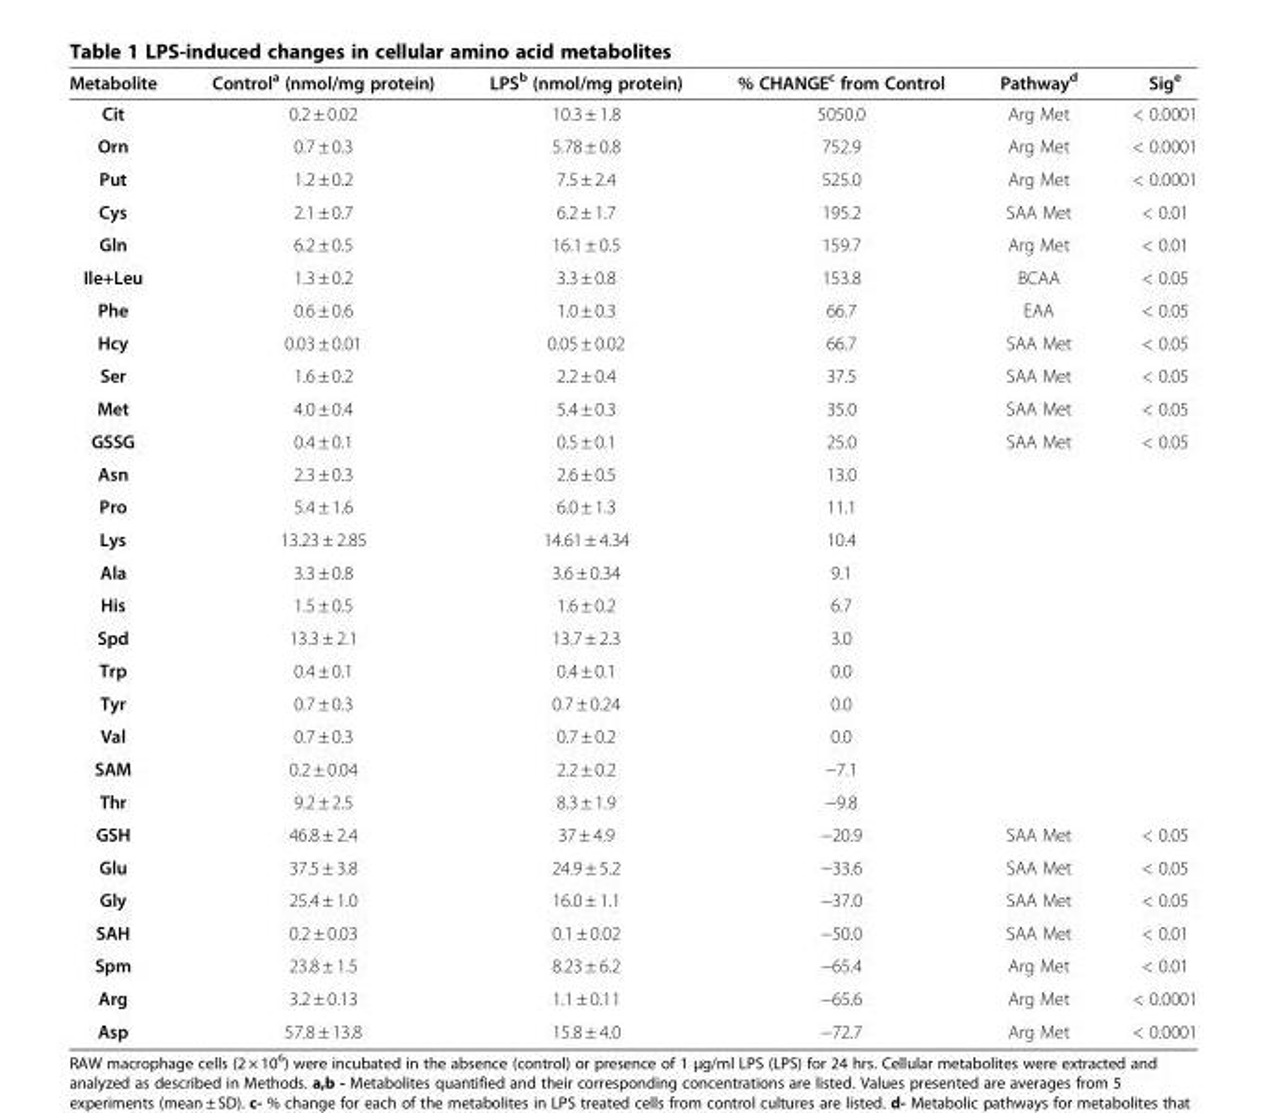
<table><thead><tr><td>Metabolite</td><td>Control<sup>a</sup> (nmol/mg protein)</td><td>LPS<sup>b</sup> (nmol/mg protein)</td><td>% CHANGE<sup>c</sup> from Control</td><td>Pathway<sup>d</sup></td><td>Sig<sup>e</sup></td></tr></thead><tbody><tr><td>Cit</td><td>0.2 ± 0.02</td><td>10.3 ± 1.8</td><td>5050.0</td><td>Arg Met</td><td>&lt; 0.0001</td></tr><tr><td>Orn</td><td>0.7 ± 0.3</td><td>5.78 ± 0.8</td><td>752.9</td><td>Arg Met</td><td>&lt; 0.0001</td></tr><tr><td>Put</td><td>1.2 ± 0.2</td><td>7.5 ± 2.4</td><td>525.0</td><td>Arg Met</td><td>&lt; 0.0001</td></tr><tr><td>Cys</td><td>2.1 ± 0.7</td><td>6.2 ± 1.7</td><td>195.2</td><td>SAA Met</td><td>&lt; 0.01</td></tr><tr><td>Gln</td><td>6.2 ± 0.5</td><td>16.1 ± 0.5</td><td>159.7</td><td>Arg Met</td><td>&lt; 0.01</td></tr><tr><td>Ile+Leu</td><td>1.3 ± 0.2</td><td>3.3 ± 0.8</td><td>153.8</td><td>BCAA</td><td>&lt; 0.05</td></tr><tr><td>Phe</td><td>0.6 ± 0.6</td><td>1.0 ± 0.3</td><td>66.7</td><td>EAA</td><td>&lt; 0.05</td></tr><tr><td>Hcy</td><td>0.03 ± 0.01</td><td>0.05 ± 0.02</td><td>66.7</td><td>SAA Met</td><td>&lt; 0.05</td></tr><tr><td>Ser</td><td>1.6 ± 0.2</td><td>2.2 ± 0.4</td><td>37.5</td><td>SAA Met</td><td>&lt; 0.05</td></tr><tr><td>Met</td><td>4.0 ± 0.4</td><td>5.4 ± 0.3</td><td>35.0</td><td>SAA Met</td><td>&lt; 0.05</td></tr><tr><td>GSSG</td><td>0.4 ± 0.1</td><td>0.5 ± 0.1</td><td>25.0</td><td>SAA Met</td><td>&lt; 0.05</td></tr><tr><td>Asn</td><td>2.3 ± 0.3</td><td>2.6 ± 0.5</td><td>13.0</td><td></td><td></td></tr><tr><td>Pro</td><td>5.4 ± 1.6</td><td>6.0 ± 1.3</td><td>11.1</td><td></td><td></td></tr><tr><td>Lys</td><td>13.23 ± 2.85</td><td>14.61 ± 4.34</td><td>10.4</td><td></td><td></td></tr><tr><td>Ala</td><td>3.3 ± 0.8</td><td>3.6 ± 0.34</td><td>9.1</td><td></td><td></td></tr><tr><td>His</td><td>1.5 ± 0.5</td><td>1.6 ± 0.2</td><td>6.7</td><td></td><td></td></tr><tr><td>Spd</td><td>13.3 ± 2.1</td><td>13.7 ± 2.3</td><td>3.0</td><td></td><td></td></tr><tr><td>Trp</td><td>0.4 ± 0.1</td><td>0.4 ± 0.1</td><td>0.0</td><td></td><td></td></tr><tr><td>Tyr</td><td>0.7 ± 0.3</td><td>0.7 ± 0.24</td><td>0.0</td><td></td><td></td></tr><tr><td>Val</td><td>0.7 ± 0.3</td><td>0.7 ± 0.2</td><td>0.0</td><td></td><td></td></tr><tr><td>SAM</td><td>0.2 ± 0.04</td><td>2.2 ± 0.2</td><td>−7.1</td><td></td><td></td></tr><tr><td>Thr</td><td>9.2 ± 2.5</td><td>8.3 ± 1.9</td><td>−9.8</td><td></td><td></td></tr><tr><td>GSH</td><td>46.8 ± 2.4</td><td>37 ± 4.9</td><td>−20.9</td><td>SAA Met</td><td>&lt; 0.05</td></tr><tr><td>Glu</td><td>37.5 ± 3.8</td><td>24.9 ± 5.2</td><td>−33.6</td><td>SAA Met</td><td>&lt; 0.05</td></tr><tr><td>Gly</td><td>25.4 ± 1.0</td><td>16.0 ± 1.1</td><td>−37.0</td><td>SAA Met</td><td>&lt; 0.05</td></tr><tr><td>SAH</td><td>0.2 ± 0.03</td><td>0.1 ± 0.02</td><td>−50.0</td><td>SAA Met</td><td>&lt; 0.01</td></tr><tr><td>Spm</td><td>23.8 ± 1.5</td><td>8.23 ± 6.2</td><td>−65.4</td><td>Arg Met</td><td>&lt; 0.01</td></tr><tr><td>Arg</td><td>3.2 ± 0.13</td><td>1.1 ± 0.11</td><td>−65.6</td><td>Arg Met</td><td>&lt; 0.0001</td></tr><tr><td>Asp</td><td>57.8 ± 13.8</td><td>15.8 ± 4.0</td><td>−72.7</td><td>Arg Met</td><td>&lt; 0.0001</td></tr></tbody></table>